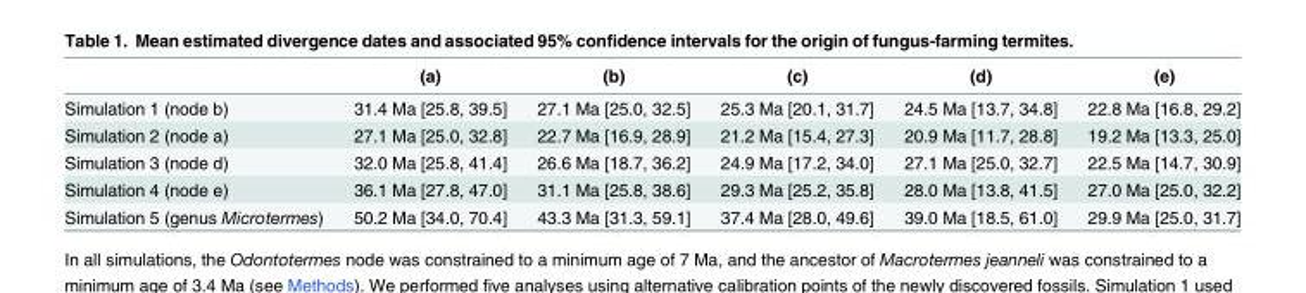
<table><thead><tr><td></td><td>(a)</td><td>(b)</td><td>(c)</td><td>(d)</td><td>(e)</td></tr></thead><tbody><tr><td>Simulation 1 (node b)</td><td>31.4 Ma [25.8, 39.5]</td><td>27.1 Ma [25.0, 32.5]</td><td>25.3 Ma [20.1, 31.7]</td><td>24.5 Ma [13.7, 34.8]</td><td>22.8 Ma [16.8, 29.2]</td></tr><tr><td>Simulation 2 (node a)</td><td>27.1 Ma [25.0, 32.8]</td><td>22.7 Ma [16.9, 28.9]</td><td>21.2 Ma [15.4, 27.3]</td><td>20.9 Ma [11.7, 28.8]</td><td>19.2 Ma [13.3, 25.0]</td></tr><tr><td>Simulation 3 (node d)</td><td>32.0 Ma [25.8, 41.4]</td><td>26.6 Ma [18.7, 36.2]</td><td>24.9 Ma [17.2, 34.0]</td><td>27.1 Ma [25.0, 32.7]</td><td>22.5 Ma [14.7, 30.9]</td></tr><tr><td>Simulation 4 (node e)</td><td>36.1 Ma [27.8, 47.0]</td><td>31.1 Ma [25.8, 38.6]</td><td>29.3 Ma [25.2, 35.8]</td><td>28.0 Ma [13.8, 41.5]</td><td>27.0 Ma [25.0, 32.2]</td></tr><tr><td>Simulation 5 (genus Microtermes)</td><td>50.2 Ma [34.0, 70.4]</td><td>43.3 Ma [31.3, 59.1]</td><td>37.4 Ma [28.0, 49.6]</td><td>39.0 Ma [18.5, 61.0]</td><td>29.9 Ma [25.0, 31.7]</td></tr></tbody></table>